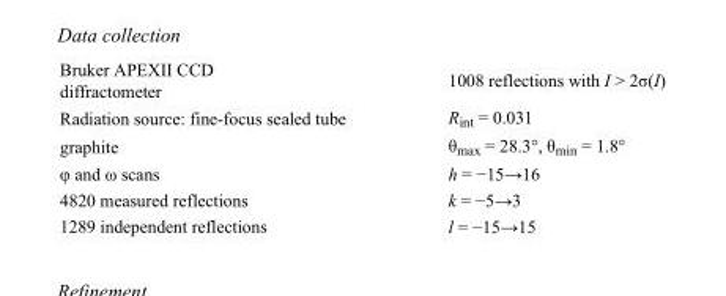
<table><tbody><tr><td>Bruker APEXII CCD diffractometer</td><td>1008 reflections with I &gt; 2σ(I)</td></tr><tr><td>Radiation source: fine-focus sealed tube</td><td>R<sub>int</sub> = 0.031</td></tr><tr><td>graphite</td><td>θ<sub>max</sub> = 28.3°, θ<sub>min</sub> = 1.8°</td></tr><tr><td>φ and ω scans</td><td>h = −15→16</td></tr><tr><td>4820 measured reflections</td><td>k = −5→3</td></tr><tr><td>1289 independent reflections</td><td>l = −15→15</td></tr></tbody></table>